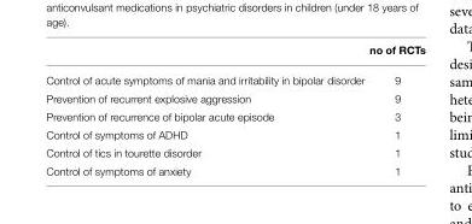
<table><thead><tr><td></td><td>no of RCTs</td></tr></thead><tbody><tr><td>Control of acute symptoms of mania and irritability in bipolar disorder</td><td>9</td></tr><tr><td>Prevention of recurrent explosive aggression</td><td>9</td></tr><tr><td>Prevention of recurrence of bipolar acute episode</td><td>3</td></tr><tr><td>Control of symptoms of ADHD</td><td>1</td></tr><tr><td>Control of tics in tourette disorder</td><td>1</td></tr><tr><td>Control of symptoms of anxiety</td><td>1</td></tr></tbody></table>